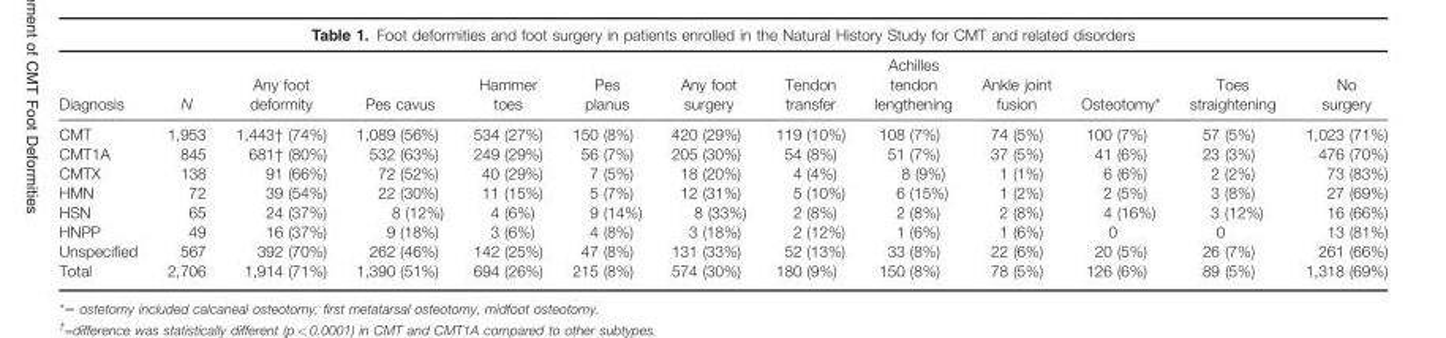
<table><thead><tr><td>Diagnosis</td><td>N</td><td>Any foot deformity</td><td>Pes cavus</td><td>Hammer toes</td><td>Pes planus</td><td>Any foot surgery</td><td>Tendon transfer</td><td>Achilles tendon lengthening</td><td>Ankle joint fusion</td><td>Osteotomy*</td><td>Toes straightening</td><td>No surgery</td></tr></thead><tbody><tr><td>CMT</td><td>1,953</td><td>1,443† (74%)</td><td>1,089 (56%)</td><td>534 (27%)</td><td>150 (8%)</td><td>420 (29%)</td><td>119 (10%)</td><td>108 (7%)</td><td>74 (5%)</td><td>100 (7%)</td><td>57 (5%)</td><td>1,023 (71%)</td></tr><tr><td>CMT1A</td><td>845</td><td>681† (80%)</td><td>532 (63%)</td><td>249 (29%)</td><td>56 (7%)</td><td>205 (30%)</td><td>54 (8%)</td><td>51 (7%)</td><td>37 (5%)</td><td>41 (6%)</td><td>23 (3%)</td><td>476 (70%)</td></tr><tr><td>CMTX</td><td>138</td><td>91 (66%)</td><td>72 (52%)</td><td>40 (29%)</td><td>7 (5%)</td><td>18 (20%)</td><td>4 (4%)</td><td>8 (9%)</td><td>1 (1%)</td><td>6 (6%)</td><td>2 (2%)</td><td>73 (83%)</td></tr><tr><td>HMN</td><td>72</td><td>39 (54%)</td><td>22 (30%)</td><td>11 (15%)</td><td>5 (7%)</td><td>12 (31%)</td><td>5 (10%)</td><td>6 (15%)</td><td>1 (2%)</td><td>2 (5%)</td><td>3 (8%)</td><td>27 (69%)</td></tr><tr><td>HSN</td><td>65</td><td>24 (37%)</td><td>8 (12%)</td><td>4 (6%)</td><td>9 (14%)</td><td>8 (33%)</td><td>2 (8%)</td><td>2 (8%)</td><td>2 (8%)</td><td>4 (16%)</td><td>3 (12%)</td><td>16 (66%)</td></tr><tr><td>HNPP</td><td>49</td><td>16 (37%)</td><td>9 (18%)</td><td>3 (6%)</td><td>4 (8%)</td><td>3 (18%)</td><td>2 (12%)</td><td>1 (6%)</td><td>1 (6%)</td><td>0</td><td>0</td><td>13 (81%)</td></tr><tr><td>Unspecified</td><td>567</td><td>392 (70%)</td><td>262 (46%)</td><td>142 (25%)</td><td>47 (8%)</td><td>131 (33%)</td><td>52 (13%)</td><td>33 (8%)</td><td>22 (6%)</td><td>20 (5%)</td><td>26 (7%)</td><td>261 (66%)</td></tr><tr><td>Total</td><td>2,706</td><td>1,914 (71%)</td><td>1,390 (51%)</td><td>694 (26%)</td><td>215 (8%)</td><td>574 (30%)</td><td>180 (9%)</td><td>150 (8%)</td><td>78 (5%)</td><td>126 (6%)</td><td>89 (5%)</td><td>1,318 (69%)</td></tr></tbody></table>